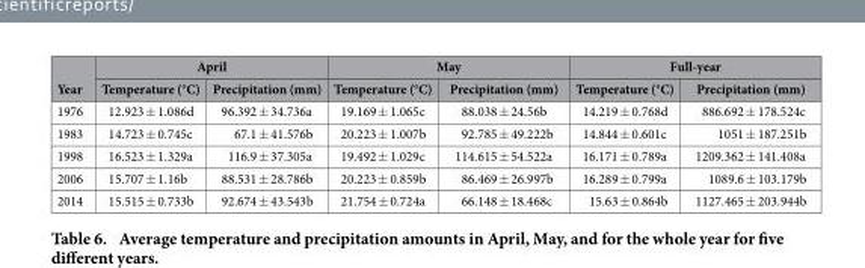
<table><thead><tr><td rowspan="2">Year</td><td colspan="2">April</td><td colspan="2">May</td><td colspan="2">Full-year</td></tr><tr><td>Temperature (°C)</td><td>Precipitation (mm)</td><td>Temperature (°C)</td><td>Precipitation (mm)</td><td>Temperature (°C)</td><td>Precipitation (mm)</td></tr></thead><tbody><tr><td>1976</td><td>12.923 ± 1.086d</td><td>96.392 ± 34.736a</td><td>19.169 ± 1.065c</td><td>88.038 ± 24.56b</td><td>14.219 ± 0.768d</td><td>886.692 ± 178.524c</td></tr><tr><td>1983</td><td>14.723 ± 0.745c</td><td>67.1 ± 41.576b</td><td>20.223 ± 1.007b</td><td>92.785 ± 49.222b</td><td>14.844 ± 0.601c</td><td>1051 ± 187.251b</td></tr><tr><td>1998</td><td>16.523 ± 1.329a</td><td>116.9 ± 37.305a</td><td>19.492 ± 1.029c</td><td>114.615 ± 54.522a</td><td>16.171 ± 0.789a</td><td>1209.362 ± 141.408a</td></tr><tr><td>2006</td><td>15.707 ± 1.16b</td><td>88.531 ± 28.786b</td><td>20.223 ± 0.859b</td><td>86.469 ± 26.997b</td><td>16.289 ± 0.799a</td><td>1089.6 ± 103.179b</td></tr><tr><td>2014</td><td>15.515 ± 0.733b</td><td>92.674 ± 43.543b</td><td>21.754 ± 0.724a</td><td>66.148 ± 18.468c</td><td>15.63 ± 0.864b</td><td>1127.465 ± 203.944b</td></tr></tbody></table>